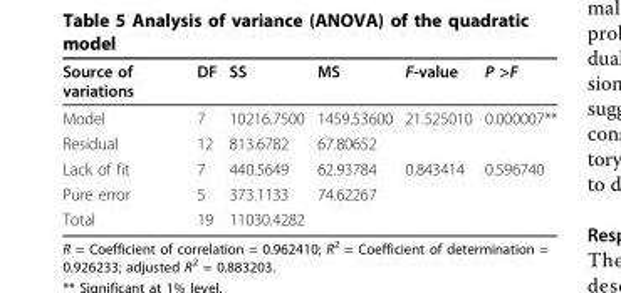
<table><thead><tr><td>Source of variations</td><td>DF</td><td>SS</td><td>MS</td><td>F-value</td><td>P &gt;F</td></tr></thead><tbody><tr><td>Model</td><td>7</td><td>10216.7500</td><td>1459.53600</td><td>21.525010</td><td>0.000007**</td></tr><tr><td>Residual</td><td>12</td><td>813.6782</td><td>67.80652</td><td></td><td></td></tr><tr><td>Lack of fit</td><td>7</td><td>440.5649</td><td>62.93784</td><td>0.843414</td><td>0.596740</td></tr><tr><td>Pure error</td><td>5</td><td>373.1133</td><td>74.62267</td><td></td><td></td></tr><tr><td>Total</td><td>19</td><td>11030.4282</td><td></td><td></td><td></td></tr></tbody></table>